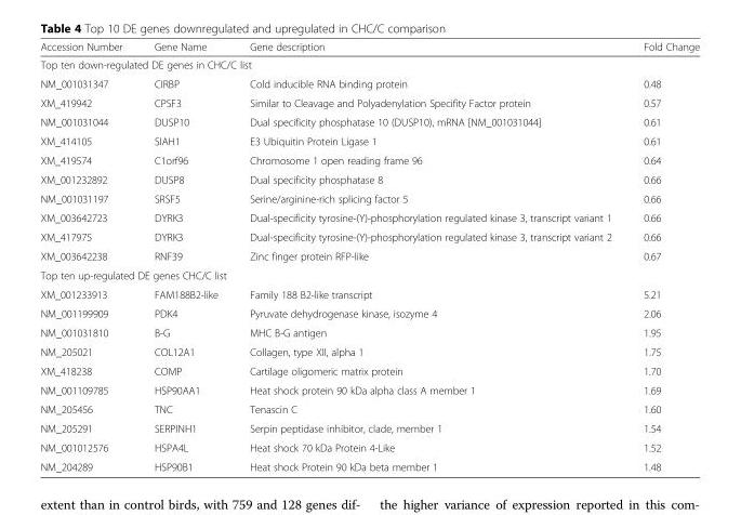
<table><thead><tr><td>Accession Number</td><td>Gene Name</td><td>Gene description</td><td>Fold Change</td></tr></thead><tbody><tr><td colspan="4">Top ten down-regulated DE genes in CHC/C list</td></tr><tr><td>NM_001031347</td><td>CIRBP</td><td>Cold inducible RNA binding protein</td><td>0.48</td></tr><tr><td>XM_419942</td><td>CPSF3</td><td>Similar to Cleavage and Polyadenylation Specifity Factor protein</td><td>0.57</td></tr><tr><td>NM_001031044</td><td>DUSP10</td><td>Dual specificity phosphatase 10 (DUSP10), mRNA [NM_001031044]</td><td>0.61</td></tr><tr><td>XM_414105</td><td>SIAH1</td><td>E3 Ubiquitin Protein Ligase 1</td><td>0.61</td></tr><tr><td>XM_419574</td><td>C1orf96</td><td>Chromosome 1 open reading frame 96</td><td>0.64</td></tr><tr><td>XM_001232892</td><td>DUSP8</td><td>Dual specificity phosphatase 8</td><td>0.66</td></tr><tr><td>NM_001031197</td><td>SRSF5</td><td>Serine/arginine-rich splicing factor 5</td><td>0.66</td></tr><tr><td>XM_003642723</td><td>DYRK3</td><td>Dual-specificity tyrosine-(Y)-phosphorylation regulated kinase 3, transcript variant 1</td><td>0.66</td></tr><tr><td>XM_417975</td><td>DYRK3</td><td>Dual-specificity tyrosine-(Y)-phosphorylation regulated kinase 3, transcript variant 2</td><td>0.66</td></tr><tr><td>XM_003642238</td><td>RNF39</td><td>Zinc finger protein RFP-like</td><td>0.67</td></tr><tr><td colspan="4">Top ten up-regulated DE genes CHC/C list</td></tr><tr><td>XM_001233913</td><td>FAM188B2-like</td><td>Family 188 B2-like transcript</td><td>5.21</td></tr><tr><td>NM_001199909</td><td>PDK4</td><td>Pyruvate dehydrogenase kinase, isozyme 4</td><td>2.06</td></tr><tr><td>NM_001031810</td><td>B-G</td><td>MHC B-G antigen</td><td>1.95</td></tr><tr><td>NM_205021</td><td>COL12A1</td><td>Collagen, type XII, alpha 1</td><td>1.75</td></tr><tr><td>XM_418238</td><td>COMP</td><td>Cartilage oligomeric matrix protein</td><td>1.70</td></tr><tr><td>NM_001109785</td><td>HSP90AA1</td><td>Heat shock protein 90 kDa alpha class A member 1</td><td>1.69</td></tr><tr><td>NM_205456</td><td>TNC</td><td>Tenascin C</td><td>1.60</td></tr><tr><td>NM_205291</td><td>SERPINH1</td><td>Serpin peptidase inhibitor, clade, member 1</td><td>1.54</td></tr><tr><td>NM_001012576</td><td>HSPA4L</td><td>Heat shock 70 kDa Protein 4-Like</td><td>1.52</td></tr><tr><td>NM_204289</td><td>HSP90B1</td><td>Heat shock Protein 90 kDa beta member 1</td><td>1.48</td></tr></tbody></table>